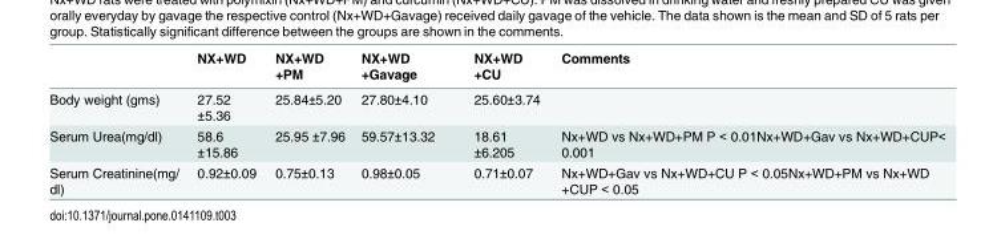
<table><thead><tr><td></td><td>NX+WD</td><td>NX+WD +PM</td><td>NX+WD +Gavage</td><td>NX+WD +CU</td><td>Comments</td></tr></thead><tbody><tr><td>Body weight (gms)</td><td>27.52 ±5.36</td><td>25.84±5.20</td><td>27.80±4.10</td><td>25.60±3.74</td><td></td></tr><tr><td>Serum Urea(mg/dl)</td><td>58.6 ±15.86</td><td>25.95 ±7.96</td><td>59.57±13.32</td><td>18.61 ±6.205</td><td>Nx+WD vs Nx+WD+PM P &lt; 0.01Nx+WD+Gav vs Nx+WD+CUP&lt; 0.001</td></tr><tr><td>Serum Creatinine(mg/ dl)</td><td>0.92±0.09</td><td>0.75±0.13</td><td>0.98±0.05</td><td>0.71±0.07</td><td>Nx+WD+Gav vs Nx+WD+CU P &lt; 0.05Nx+WD+PM vs Nx+WD +CUP &lt; 0.05</td></tr></tbody></table>